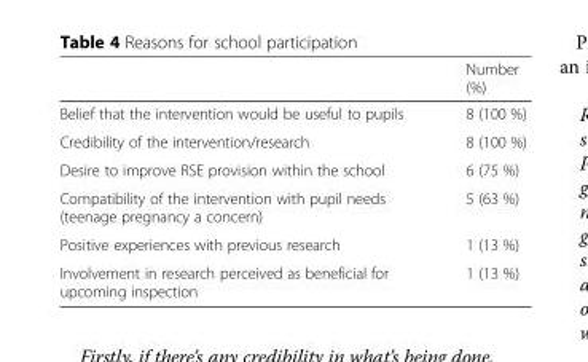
<table><thead><tr><td></td><td>Number (%)</td></tr></thead><tbody><tr><td>Belief that the intervention would be useful to pupils</td><td>8 (100 %)</td></tr><tr><td>Credibility of the intervention/research</td><td>8 (100 %)</td></tr><tr><td>Desire to improve RSE provision within the school</td><td>6 (75 %)</td></tr><tr><td>Compatibility of the intervention with pupil needs (teenage pregnancy a concern)</td><td>5 (63 %)</td></tr><tr><td>Positive experiences with previous research</td><td>1 (13 %)</td></tr><tr><td>Involvement in research perceived as beneficial for upcoming inspection</td><td>1 (13 %)</td></tr></tbody></table>